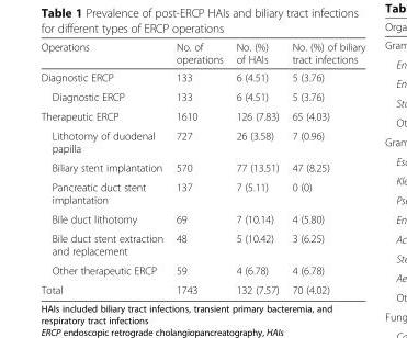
<table><thead><tr><td>Operations</td><td>No. of operations</td><td>No. (%) of HAIs</td><td>No. (%) of biliary tract infections</td></tr></thead><tbody><tr><td>Diagnostic ERCP</td><td>133</td><td>6 (4.51)</td><td>5 (3.76)</td></tr><tr><td>Diagnostic ERCP</td><td>133</td><td>6 (4.51)</td><td>5 (3.76)</td></tr><tr><td>Therapeutic ERCP</td><td>1610</td><td>126 (7.83)</td><td>65 (4.03)</td></tr><tr><td>Lithotomy of duodenal papilla</td><td>727</td><td>26 (3.58)</td><td>7 (0.96)</td></tr><tr><td>Biliary stent implantation</td><td>570</td><td>77 (13.51)</td><td>47 (8.25)</td></tr><tr><td>Pancreatic duct stent implantation</td><td>137</td><td>7 (5.11)</td><td>0 (0)</td></tr><tr><td>Bile duct lithotomy</td><td>69</td><td>7 (10.14)</td><td>4 (5.80)</td></tr><tr><td>Bile duct stent extraction and replacement</td><td>48</td><td>5 (10.42)</td><td>3 (6.25)</td></tr><tr><td>Other therapeutic ERCP</td><td>59</td><td>4 (6.78)</td><td>4 (6.78)</td></tr><tr><td>Total</td><td>1743</td><td>132 (7.57)</td><td>70 (4.02)</td></tr></tbody></table>